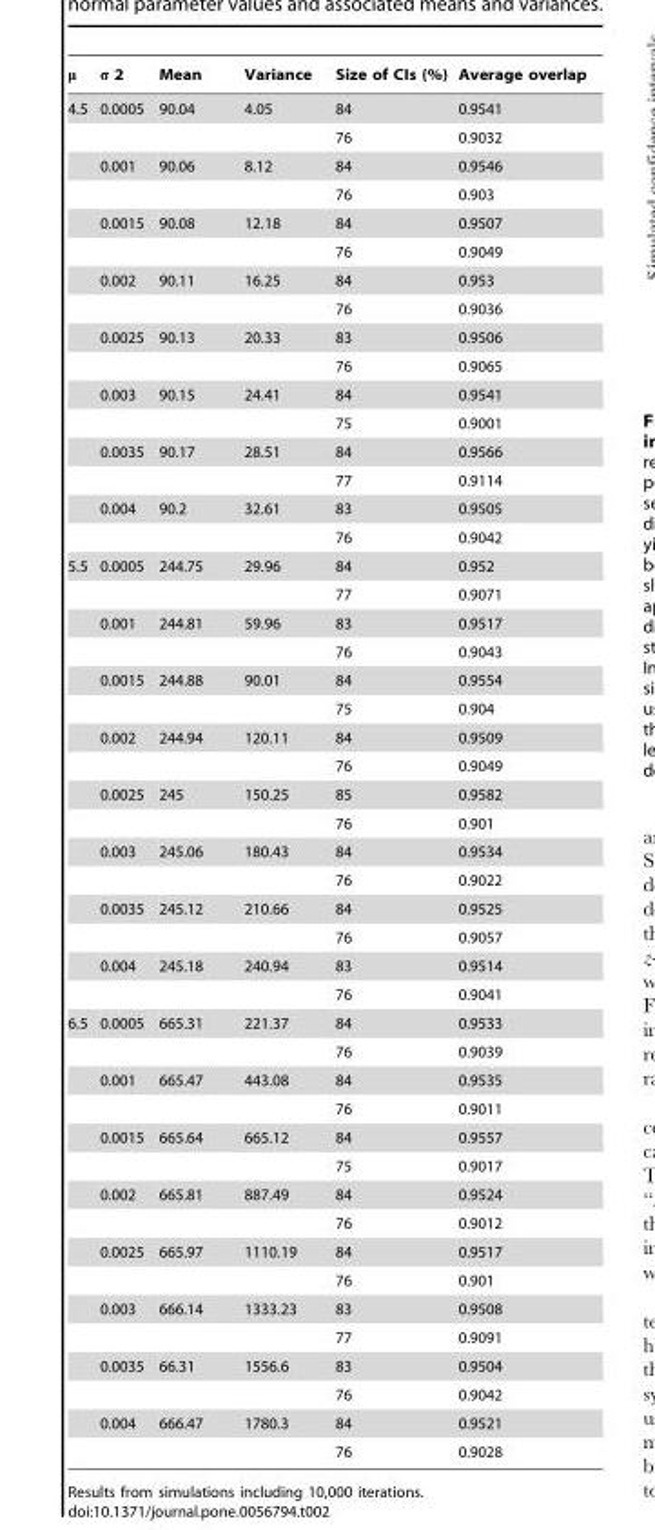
<table><thead><tr><td>μ</td><td>σ 2</td><td>Mean</td><td>Variance</td><td>Size of CIs (%)</td><td>Average overlap</td></tr></thead><tbody><tr><td rowspan="16">4.5</td><td>0.0005</td><td>90.04</td><td>4.05</td><td>84</td><td>0.9541</td></tr><tr><td></td><td></td><td></td><td>76</td><td>0.9032</td></tr><tr><td>0.001</td><td>90.06</td><td>8.12</td><td>84</td><td>0.9546</td></tr><tr><td></td><td></td><td></td><td>76</td><td>0.903</td></tr><tr><td>0.0015</td><td>90.08</td><td>12.18</td><td>84</td><td>0.9507</td></tr><tr><td></td><td></td><td></td><td>76</td><td>0.9049</td></tr><tr><td>0.002</td><td>90.11</td><td>16.25</td><td>84</td><td>0.953</td></tr><tr><td></td><td></td><td></td><td>76</td><td>0.9036</td></tr><tr><td>0.0025</td><td>90.13</td><td>20.33</td><td>83</td><td>0.9506</td></tr><tr><td></td><td></td><td></td><td>76</td><td>0.9065</td></tr><tr><td>0.003</td><td>90.15</td><td>24.41</td><td>84</td><td>0.9541</td></tr><tr><td></td><td></td><td></td><td>75</td><td>0.9001</td></tr><tr><td>0.0035</td><td>90.17</td><td>28.51</td><td>84</td><td>0.9566</td></tr><tr><td></td><td></td><td></td><td>77</td><td>0.9114</td></tr><tr><td>0.004</td><td>90.2</td><td>32.61</td><td>83</td><td>0.9505</td></tr><tr><td></td><td></td><td></td><td>76</td><td>0.9042</td></tr><tr><td rowspan="16">5.5</td><td>0.0005</td><td>244.75</td><td>29.96</td><td>84</td><td>0.952</td></tr><tr><td></td><td></td><td></td><td>77</td><td>0.9071</td></tr><tr><td>0.001</td><td>244.81</td><td>59.96</td><td>83</td><td>0.9517</td></tr><tr><td></td><td></td><td></td><td>76</td><td>0.9043</td></tr><tr><td>0.0015</td><td>244.88</td><td>90.01</td><td>84</td><td>0.9554</td></tr><tr><td></td><td></td><td></td><td>75</td><td>0.904</td></tr><tr><td>0.002</td><td>244.94</td><td>120.11</td><td>84</td><td>0.9509</td></tr><tr><td></td><td></td><td></td><td>76</td><td>0.9049</td></tr><tr><td>0.0025</td><td>245</td><td>150.25</td><td>85</td><td>0.9582</td></tr><tr><td></td><td></td><td></td><td>76</td><td>0.901</td></tr><tr><td>0.003</td><td>245.06</td><td>180.43</td><td>84</td><td>0.9534</td></tr><tr><td></td><td></td><td></td><td>76</td><td>0.9022</td></tr><tr><td>0.0035</td><td>245.12</td><td>210.66</td><td>84</td><td>0.9525</td></tr><tr><td></td><td></td><td></td><td>76</td><td>0.9057</td></tr><tr><td>0.004</td><td>245.18</td><td>240.94</td><td>83</td><td>0.9514</td></tr><tr><td></td><td></td><td></td><td>76</td><td>0.9041</td></tr><tr><td rowspan="16">6.5</td><td>0.0005</td><td>665.31</td><td>221.37</td><td>84</td><td>0.9533</td></tr><tr><td></td><td></td><td></td><td>76</td><td>0.9039</td></tr><tr><td>0.001</td><td>665.47</td><td>443.08</td><td>84</td><td>0.9535</td></tr><tr><td></td><td></td><td></td><td>76</td><td>0.9011</td></tr><tr><td>0.0015</td><td>665.64</td><td>665.12</td><td>84</td><td>0.9557</td></tr><tr><td></td><td></td><td></td><td>75</td><td>0.9017</td></tr><tr><td>0.002</td><td>665.81</td><td>887.49</td><td>84</td><td>0.9524</td></tr><tr><td></td><td></td><td></td><td>76</td><td>0.9012</td></tr><tr><td>0.0025</td><td>665.97</td><td>1110.19</td><td>84</td><td>0.9517</td></tr><tr><td></td><td></td><td></td><td>76</td><td>0.901</td></tr><tr><td>0.003</td><td>666.14</td><td>1333.23</td><td>83</td><td>0.9508</td></tr><tr><td></td><td></td><td></td><td>77</td><td>0.9091</td></tr><tr><td>0.0035</td><td>66.31</td><td>1556.6</td><td>83</td><td>0.9504</td></tr><tr><td></td><td></td><td></td><td>76</td><td>0.9042</td></tr><tr><td>0.004</td><td>666.47</td><td>1780.3</td><td>84</td><td>0.9521</td></tr><tr><td></td><td></td><td></td><td>76</td><td>0.9028</td></tr></tbody></table>